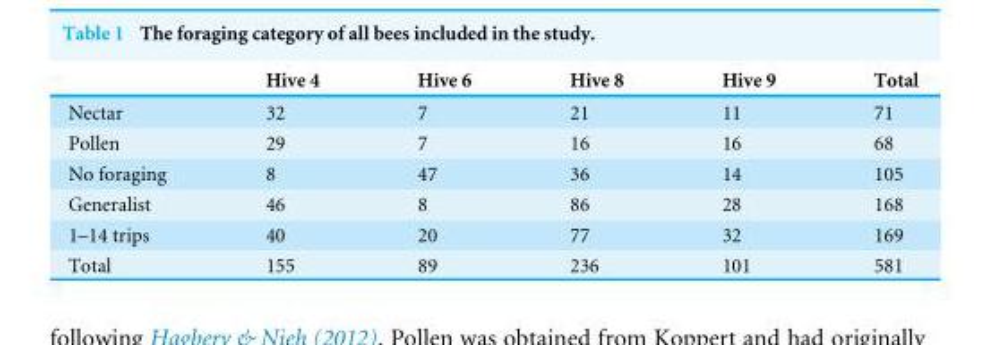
<table><thead><tr><td></td><td>Hive 4</td><td>Hive 6</td><td>Hive 8</td><td>Hive 9</td><td>Total</td></tr></thead><tbody><tr><td>Nectar</td><td>32</td><td>7</td><td>21</td><td>11</td><td>71</td></tr><tr><td>Pollen</td><td>29</td><td>7</td><td>16</td><td>16</td><td>68</td></tr><tr><td>No foraging</td><td>8</td><td>47</td><td>36</td><td>14</td><td>105</td></tr><tr><td>Generalist</td><td>46</td><td>8</td><td>86</td><td>28</td><td>168</td></tr><tr><td>1–14 trips</td><td>40</td><td>20</td><td>77</td><td>32</td><td>169</td></tr><tr><td>Total</td><td>155</td><td>89</td><td>236</td><td>101</td><td>581</td></tr></tbody></table>